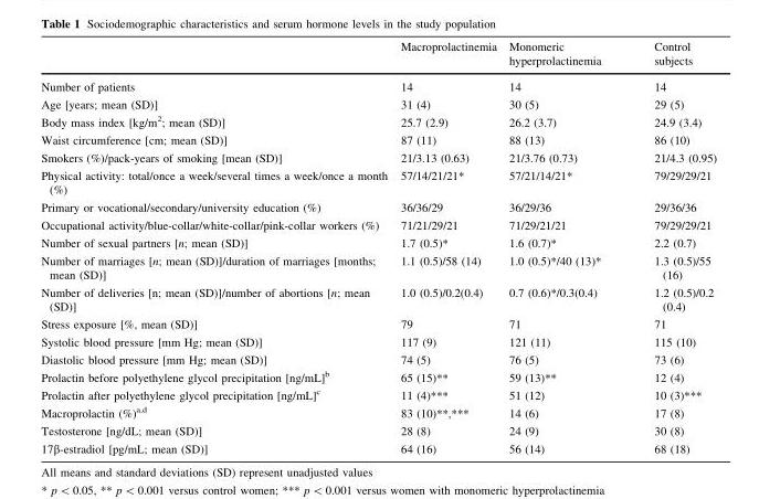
<table><thead><tr><td></td><td>Macroprolactinemia</td><td>Monomeric hyperprolactinemia</td><td>Control subjects</td></tr></thead><tbody><tr><td>Number of patients</td><td>14</td><td>14</td><td>14</td></tr><tr><td>Age [years; mean (SD)]</td><td>31 (4)</td><td>30 (5)</td><td>29 (5)</td></tr><tr><td>Body mass index [kg/m<sup>2</sup>; mean (SD)]</td><td>25.7 (2.9)</td><td>26.2 (3.7)</td><td>24.9 (3.4)</td></tr><tr><td>Waist circumference [cm; mean (SD)]</td><td>87 (11)</td><td>88 (13)</td><td>86 (10)</td></tr><tr><td>Smokers (%)/pack-years of smoking [mean (SD)]</td><td>21/3.13 (0.63)</td><td>21/3.76 (0.73)</td><td>21/4.3 (0.95)</td></tr><tr><td>Physical activity: total/once a week/several times a week/once a month (%)</td><td>57/14/21/21*</td><td>57/21/14/21*</td><td>79/29/29/21</td></tr><tr><td>Primary or vocational/secondary/university education (%)</td><td>36/36/29</td><td>36/29/36</td><td>29/36/36</td></tr><tr><td>Occupational activity/blue-collar/white-collar/pink-collar workers (%)</td><td>71/21/29/21</td><td>71/29/21/21</td><td>79/29/29/21</td></tr><tr><td>Number of sexual partners [n; mean (SD)]</td><td>1.7 (0.5)*</td><td>1.6 (0.7)*</td><td>2.2 (0.7)</td></tr><tr><td>Number of marriages [n; mean (SD)]/duration of marriages [months; mean (SD)]</td><td>1.1 (0.5)/58 (14)</td><td>1.0 (0.5)*/40 (13)*</td><td>1.3 (0.5)/55 (16)</td></tr><tr><td>Number of deliveries [n; mean (SD)]/number of abortions [n; mean (SD)]</td><td>1.0 (0.5)/0.2(0.4)</td><td>0.7 (0.6)*/0.3(0.4)</td><td>1.2 (0.5)/0.2 (0.4)</td></tr><tr><td>Stress exposure [%, mean (SD)]</td><td>79</td><td>71</td><td>71</td></tr><tr><td>Systolic blood pressure [mm Hg; mean (SD)]</td><td>117 (9)</td><td>121 (11)</td><td>115 (10)</td></tr><tr><td>Diastolic blood pressure [mm Hg; mean (SD)]</td><td>74 (5)</td><td>76 (5)</td><td>73 (6)</td></tr><tr><td>Prolactin before polyethylene glycol precipitation [ng/mL]<sup>b</sup></td><td>65 (15)**</td><td>59 (13)**</td><td>12 (4)</td></tr><tr><td>Prolactin after polyethylene glycol precipitation [ng/mL]<sup>c</sup></td><td>11 (4)***</td><td>51 (12)</td><td>10 (3)***</td></tr><tr><td>Macroprolactin (%)<sup>a,d</sup></td><td>83 (10)**,***</td><td>14 (6)</td><td>17 (8)</td></tr><tr><td>Testosterone [ng/dL; mean (SD)]</td><td>28 (8)</td><td>24 (9)</td><td>30 (8)</td></tr><tr><td>17β-estradiol [pg/mL; mean (SD)]</td><td>64 (16)</td><td>56 (14)</td><td>68 (18)</td></tr></tbody></table>